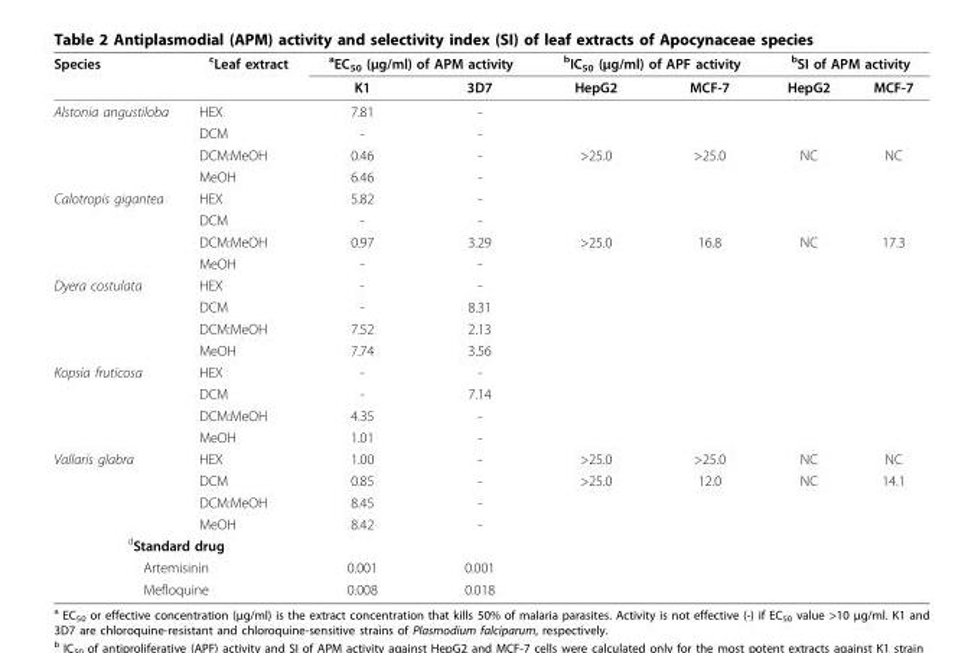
<table><thead><tr><td rowspan="2">Species</td><td rowspan="2"><sup>c</sup>Leaf extract</td><td colspan="2"><sup>a</sup>EC<sub>50</sub> (μg/ml) of APM activity</td><td colspan="2"><sup>b</sup>IC<sub>50</sub> (μg/ml) of APF activity</td><td colspan="2"><sup>b</sup>SI of APM activity</td></tr><tr><td>K1</td><td>3D7</td><td>HepG2</td><td>MCF-7</td><td>HepG2</td><td>MCF-7</td></tr></thead><tbody><tr><td rowspan="4">Alstonia angustiloba</td><td>HEX</td><td>7.81</td><td>-</td><td></td><td></td><td></td><td></td></tr><tr><td>DCM</td><td>-</td><td>-</td><td></td><td></td><td></td><td></td></tr><tr><td>DCM:MeOH</td><td>0.46</td><td>-</td><td>&gt;25.0</td><td>&gt;25.0</td><td>NC</td><td>NC</td></tr><tr><td>MeOH</td><td>6.46</td><td>-</td><td></td><td></td><td></td><td></td></tr><tr><td rowspan="4">Calotropis gigantea</td><td>HEX</td><td>5.82</td><td>-</td><td></td><td></td><td></td><td></td></tr><tr><td>DCM</td><td>-</td><td>-</td><td></td><td></td><td></td><td></td></tr><tr><td>DCM:MeOH</td><td>0.97</td><td>3.29</td><td>&gt;25.0</td><td>16.8</td><td>NC</td><td>17.3</td></tr><tr><td>MeOH</td><td>-</td><td>-</td><td></td><td></td><td></td><td></td></tr><tr><td rowspan="4">Dyera costulata</td><td>HEX</td><td>-</td><td>-</td><td></td><td></td><td></td><td></td></tr><tr><td>DCM</td><td>-</td><td>8.31</td><td></td><td></td><td></td><td></td></tr><tr><td>DCM:MeOH</td><td>7.52</td><td>2.13</td><td></td><td></td><td></td><td></td></tr><tr><td>MeOH</td><td>7.74</td><td>3.56</td><td></td><td></td><td></td><td></td></tr><tr><td rowspan="4">Kopsia fruticosa</td><td>HEX</td><td>-</td><td>-</td><td></td><td></td><td></td><td></td></tr><tr><td>DCM</td><td>-</td><td>7.14</td><td></td><td></td><td></td><td></td></tr><tr><td>DCM:MeOH</td><td>4.35</td><td>-</td><td></td><td></td><td></td><td></td></tr><tr><td>MeOH</td><td>1.01</td><td>-</td><td></td><td></td><td></td><td></td></tr><tr><td rowspan="4">Vallaris glabra</td><td>HEX</td><td>1.00</td><td>-</td><td>&gt;25.0</td><td>&gt;25.0</td><td>NC</td><td>NC</td></tr><tr><td>DCM</td><td>0.85</td><td>-</td><td>&gt;25.0</td><td>12.0</td><td>NC</td><td>14.1</td></tr><tr><td>DCM:MeOH</td><td>8.45</td><td>-</td><td></td><td></td><td></td><td></td></tr><tr><td>MeOH</td><td>8.42</td><td>-</td><td></td><td></td><td></td><td></td></tr><tr><td colspan="8"><sup>d</sup>Standard drug</td></tr><tr><td colspan="2">Artemisinin</td><td>0.001</td><td>0.001</td><td></td><td></td><td></td><td></td></tr><tr><td colspan="2">Mefloquine</td><td>0.008</td><td>0.018</td><td></td><td></td><td></td><td></td></tr></tbody></table>